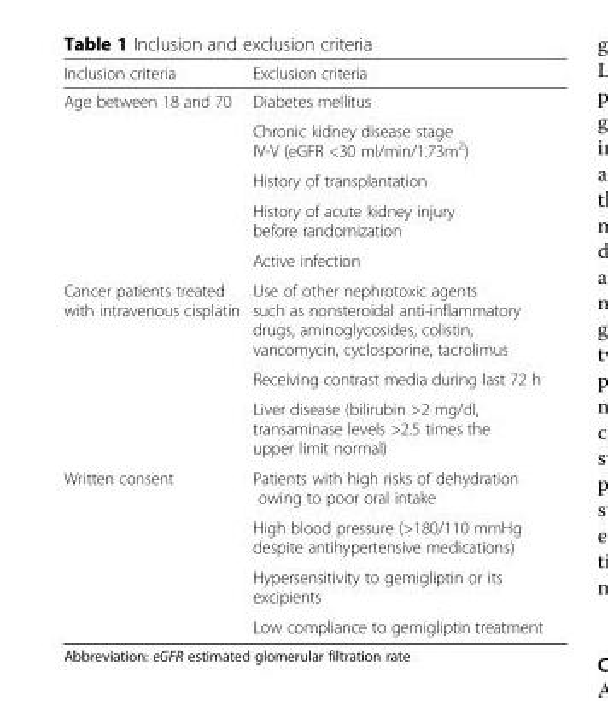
<table><thead><tr><td>Inclusion criteria</td><td>Exclusion criteria</td></tr></thead><tbody><tr><td rowspan="5">Age between 18 and 70</td><td>Diabetes mellitus</td></tr><tr><td>Chronic kidney disease stage IV-V (eGFR &lt;30 ml/min/1.73m<sup>2</sup>)</td></tr><tr><td>History of transplantation</td></tr><tr><td>History of acute kidney injury before randomization</td></tr><tr><td>Active infection</td></tr><tr><td rowspan="3">Cancer patients treated with intravenous cisplatin</td><td>Use of other nephrotoxic agents such as nonsteroidal anti-inflammatory drugs, aminoglycosides, colistin, vancomycin, cyclosporine, tacrolimus</td></tr><tr><td>Receiving contrast media during last 72 h</td></tr><tr><td>Liver disease (bilirubin &gt;2 mg/dl, transaminase levels &gt;2.5 times the upper limit normal)</td></tr><tr><td rowspan="4">Written consent</td><td>Patients with high risks of dehydration owing to poor oral intake</td></tr><tr><td>High blood pressure (&gt;180/110 mmHg despite antihypertensive medications)</td></tr><tr><td>Hypersensitivity to gemigliptin or its excipients</td></tr><tr><td>Low compliance to gemigliptin treatment</td></tr></tbody></table>